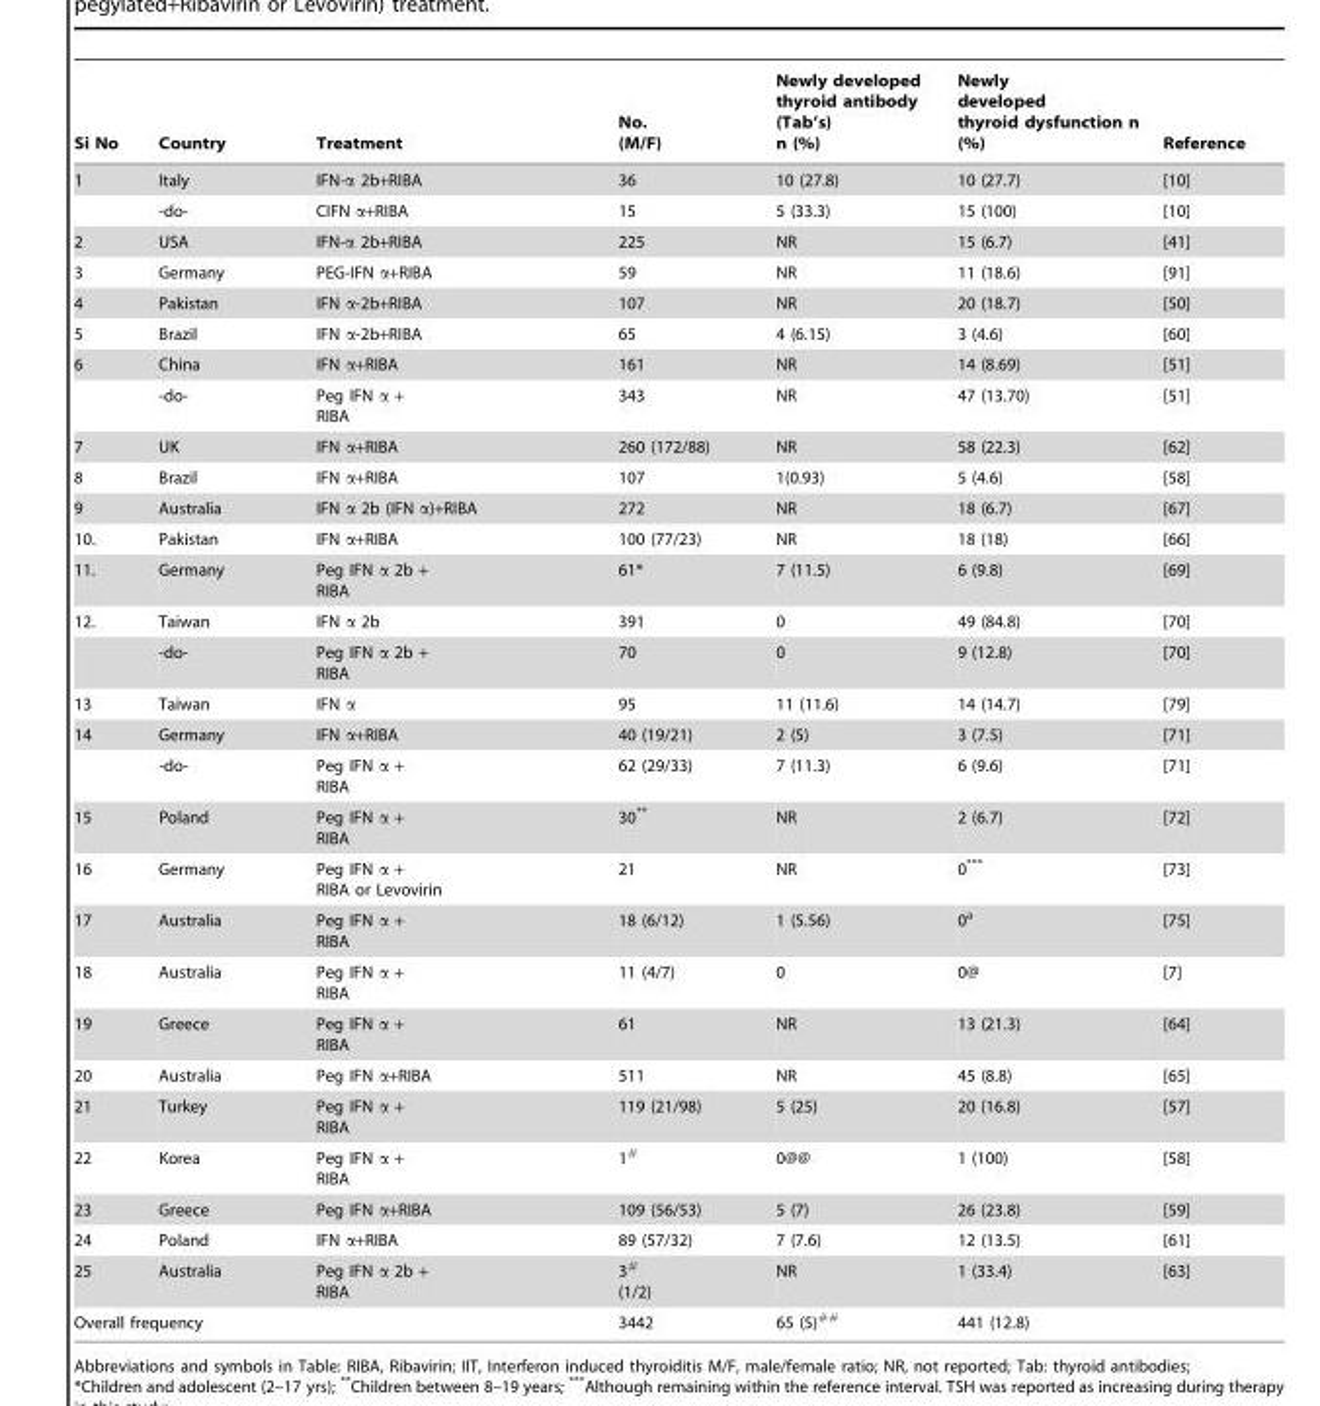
<table><thead><tr><td>Si No</td><td>Country</td><td>Treatment</td><td>No. (M/F)</td><td>Newly developed thyroid antibody (Tab’s) n (%)</td><td>Newly developed thyroid dysfunction n (%)</td><td>Reference</td></tr></thead><tbody><tr><td rowspan="2">1</td><td>Italy</td><td>IFN-α 2b+RIBA</td><td>36</td><td>10 (27.8)</td><td>10 (27.7)</td><td>[10]</td></tr><tr><td>-do-</td><td>CIFN α+RIBA</td><td>15</td><td>5 (33.3)</td><td>15 (100)</td><td>[10]</td></tr><tr><td>2</td><td>USA</td><td>IFN-α 2b+RIBA</td><td>225</td><td>NR</td><td>15 (6.7)</td><td>[41]</td></tr><tr><td>3</td><td>Germany</td><td>PEG-IFN α+RIBA</td><td>59</td><td>NR</td><td>11 (18.6)</td><td>[91]</td></tr><tr><td>4</td><td>Pakistan</td><td>IFN α-2b+RIBA</td><td>107</td><td>NR</td><td>20 (18.7)</td><td>[50]</td></tr><tr><td>5</td><td>Brazil</td><td>IFN α-2b+RIBA</td><td>65</td><td>4 (6.15)</td><td>3 (4.6)</td><td>[60]</td></tr><tr><td rowspan="2">6</td><td>China</td><td>IFN α+RIBA</td><td>161</td><td>NR</td><td>14 (8.69)</td><td>[51]</td></tr><tr><td>-do-</td><td>Peg IFN α + RIBA</td><td>343</td><td>NR</td><td>47 (13.70)</td><td>[51]</td></tr><tr><td>7</td><td>UK</td><td>IFN α+RIBA</td><td>260 (172/88)</td><td>NR</td><td>58 (22.3)</td><td>[62]</td></tr><tr><td>8</td><td>Brazil</td><td>IFN α+RIBA</td><td>107</td><td>1(0.93)</td><td>5 (4.6)</td><td>[58]</td></tr><tr><td>9</td><td>Australia</td><td>IFN α 2b (IFN α)+RIBA</td><td>272</td><td>NR</td><td>18 (6.7)</td><td>[67]</td></tr><tr><td>10.</td><td>Pakistan</td><td>IFN α+RIBA</td><td>100 (77/23)</td><td>NR</td><td>18 (18)</td><td>[66]</td></tr><tr><td>11.</td><td>Germany</td><td>Peg IFN α 2b + RIBA</td><td>61*</td><td>7 (11.5)</td><td>6 (9.8)</td><td>[69]</td></tr><tr><td rowspan="2">12.</td><td>Taiwan</td><td>IFN α 2b</td><td>391</td><td>0</td><td>49 (84.8)</td><td>[70]</td></tr><tr><td>-do-</td><td>Peg IFN α 2b + RIBA</td><td>70</td><td>0</td><td>9 (12.8)</td><td>[70]</td></tr><tr><td>13</td><td>Taiwan</td><td>IFN α</td><td>95</td><td>11 (11.6)</td><td>14 (14.7)</td><td>[79]</td></tr><tr><td rowspan="2">14</td><td>Germany</td><td>IFN α+RIBA</td><td>40 (19/21)</td><td>2 (5)</td><td>3 (7.5)</td><td>[71]</td></tr><tr><td>-do-</td><td>Peg IFN α + RIBA</td><td>62 (29/33)</td><td>7 (11.3)</td><td>6 (9.6)</td><td>[71]</td></tr><tr><td>15</td><td>Poland</td><td>Peg IFN α + RIBA</td><td>30**</td><td>NR</td><td>2 (6.7)</td><td>[72]</td></tr><tr><td>16</td><td>Germany</td><td>Peg IFN α + RIBA or Levovirin</td><td>21</td><td>NR</td><td>0***</td><td>[73]</td></tr><tr><td>17</td><td>Australia</td><td>Peg IFN α + RIBA</td><td>18 (6/12)</td><td>1 (5.56)</td><td>0<sup>a</sup></td><td>[75]</td></tr><tr><td>18</td><td>Australia</td><td>Peg IFN α + RIBA</td><td>11 (4/7)</td><td>0</td><td>0@</td><td>[7]</td></tr><tr><td>19</td><td>Greece</td><td>Peg IFN α + RIBA</td><td>61</td><td>NR</td><td>13 (21.3)</td><td>[64]</td></tr><tr><td>20</td><td>Australia</td><td>Peg IFN α+RIBA</td><td>511</td><td>NR</td><td>45 (8.8)</td><td>[65]</td></tr><tr><td>21</td><td>Turkey</td><td>Peg IFN α + RIBA</td><td>119 (21/98)</td><td>5 (25)</td><td>20 (16.8)</td><td>[57]</td></tr><tr><td>22</td><td>Korea</td><td>Peg IFN α + RIBA</td><td>1#</td><td>0@@</td><td>1 (100)</td><td>[58]</td></tr><tr><td>23</td><td>Greece</td><td>Peg IFN α+RIBA</td><td>109 (56/53)</td><td>5 (7)</td><td>26 (23.8)</td><td>[59]</td></tr><tr><td>24</td><td>Poland</td><td>IFN α+RIBA</td><td>89 (57/32)</td><td>7 (7.6)</td><td>12 (13.5)</td><td>[61]</td></tr><tr><td>25</td><td>Australia</td><td>Peg IFN α 2b + RIBA</td><td>3# (1/2)</td><td>NR</td><td>1 (33.4)</td><td>[63]</td></tr><tr><td colspan="2">Overall frequency</td><td></td><td>3442</td><td>65 (5)<sup>##</sup></td><td>441 (12.8)</td><td></td></tr></tbody></table>